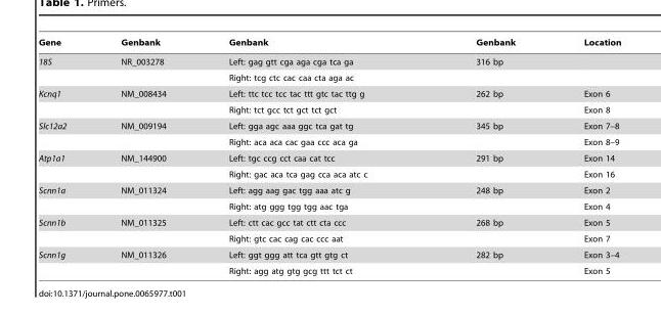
<table><thead><tr><td>Gene</td><td>Genbank</td><td>Genbank</td><td>Genbank</td><td>Location</td></tr></thead><tbody><tr><td rowspan="2">18S</td><td>NR_003278</td><td>Left: gag gtt cga aga cga tca ga</td><td>316 bp</td><td></td></tr><tr><td></td><td>Right: tcg ctc cac caa cta aga ac</td><td></td><td></td></tr><tr><td rowspan="2">Kcnq1</td><td>NM_008434</td><td>Left: ttc tcc tcc tac ttt gtc tac ttg g</td><td>262 bp</td><td>Exon 6</td></tr><tr><td></td><td>Right: tct gcc tct gct tct gct</td><td></td><td>Exon 8</td></tr><tr><td rowspan="2">Slc12a2</td><td>NM_009194</td><td>Left: gga agc aaa ggc tca gat tg</td><td>345 bp</td><td>Exon 7–8</td></tr><tr><td></td><td>Right: aca aca cac gaa ccc aca ga</td><td></td><td>Exon 8–9</td></tr><tr><td rowspan="2">Atp1a1</td><td>NM_144900</td><td>Left: tgc ccg cct caa cat tcc</td><td>291 bp</td><td>Exon 14</td></tr><tr><td></td><td>Right: gac aca tca gag cca aca atc c</td><td></td><td>Exon 16</td></tr><tr><td rowspan="2">Scnn1a</td><td>NM_011324</td><td>Left: agg aag gac tgg aaa atc g</td><td>248 bp</td><td>Exon 2</td></tr><tr><td></td><td>Right: atg ggg tgg tgg aac tga</td><td></td><td>Exon 4</td></tr><tr><td rowspan="2">Scnn1b</td><td>NM_011325</td><td>Left: ctt cac gcc tat ctt cta ccc</td><td>268 bp</td><td>Exon 5</td></tr><tr><td></td><td>Right: gtc cac cag cac ccc aat</td><td></td><td>Exon 7</td></tr><tr><td rowspan="2">Scnn1g</td><td>NM_011326</td><td>Left: ggt ggg att tca gtt gtg ct</td><td>282 bp</td><td>Exon 3–4</td></tr><tr><td></td><td>Right: agg atg gtg gcg ttt tct ct</td><td></td><td>Exon 5</td></tr></tbody></table>